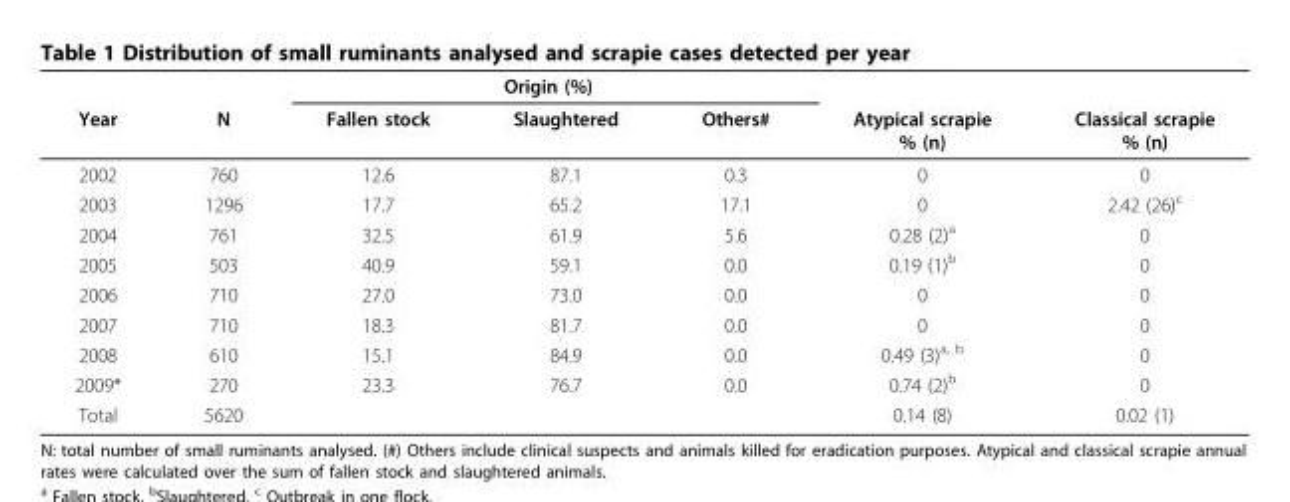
<table><thead><tr><td rowspan="2">Year</td><td rowspan="2">N</td><td colspan="3">Origin (%)</td><td rowspan="2">Atypical scrapie % (n)</td><td rowspan="2">Classical scrapie % (n)</td></tr><tr><td>Fallen stock</td><td>Slaughtered</td><td>Others#</td></tr></thead><tbody><tr><td>2002</td><td>760</td><td>12.6</td><td>87.1</td><td>0.3</td><td>0</td><td>0</td></tr><tr><td>2003</td><td>1296</td><td>17.7</td><td>65.2</td><td>17.1</td><td>0</td><td>2.42 (26)<sup>c</sup></td></tr><tr><td>2004</td><td>761</td><td>32.5</td><td>61.9</td><td>5.6</td><td>0.28 (2)<sup>a</sup></td><td>0</td></tr><tr><td>2005</td><td>503</td><td>40.9</td><td>59.1</td><td>0.0</td><td>0.19 (1)<sup>b</sup></td><td>0</td></tr><tr><td>2006</td><td>710</td><td>27.0</td><td>73.0</td><td>0.0</td><td>0</td><td>0</td></tr><tr><td>2007</td><td>710</td><td>18.3</td><td>81.7</td><td>0.0</td><td>0</td><td>0</td></tr><tr><td>2008</td><td>610</td><td>15.1</td><td>84.9</td><td>0.0</td><td>0.49 (3)<sup>a, b</sup></td><td>0</td></tr><tr><td>2009*</td><td>270</td><td>23.3</td><td>76.7</td><td>0.0</td><td>0.74 (2)<sup>b</sup></td><td>0</td></tr><tr><td>Total</td><td>5620</td><td></td><td></td><td></td><td>0.14 (8)</td><td>0.02 (1)</td></tr></tbody></table>